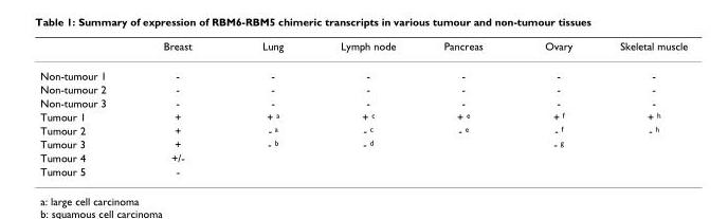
<table><thead><tr><td></td><td>Breast</td><td>Lung</td><td>Lymph node</td><td>Pancreas</td><td>Ovary</td><td>Skeletal muscle</td></tr></thead><tbody><tr><td>Non-tumour 1</td><td>-</td><td>-</td><td>-</td><td>-</td><td>-</td><td>-</td></tr><tr><td>Non-tumour 2</td><td>-</td><td>-</td><td>-</td><td>-</td><td>-</td><td>-</td></tr><tr><td>Non-tumour 3</td><td>-</td><td>-</td><td>-</td><td>-</td><td>-</td><td>-</td></tr><tr><td>Tumour 1</td><td>+</td><td>+ <sup>a</sup></td><td>+ <sup>c</sup></td><td>+ <sup>e</sup></td><td>+ <sup>f</sup></td><td>+ <sup>h</sup></td></tr><tr><td>Tumour 2</td><td>+</td><td>- <sup>a</sup></td><td>- <sup>c</sup></td><td>- <sup>e</sup></td><td>- <sup>f</sup></td><td>- <sup>h</sup></td></tr><tr><td>Tumour 3</td><td>+</td><td>- <sup>b</sup></td><td>- <sup>d</sup></td><td></td><td>- <sup>g</sup></td><td></td></tr><tr><td>Tumour 4</td><td>+/-</td><td></td><td></td><td></td><td></td><td></td></tr><tr><td>Tumour 5</td><td>-</td><td></td><td></td><td></td><td></td><td></td></tr></tbody></table>